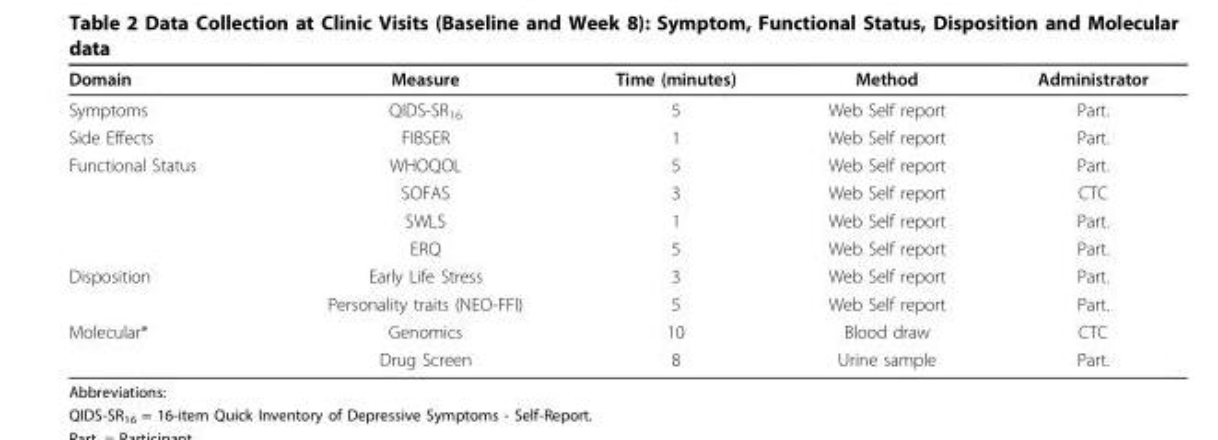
<table><thead><tr><td>Domain</td><td>Measure</td><td>Time (minutes)</td><td>Method</td><td>Administrator</td></tr></thead><tbody><tr><td>Symptoms</td><td>QIDS-SR<sub>16</sub></td><td>5</td><td>Web Self report</td><td>Part.</td></tr><tr><td>Side Effects</td><td>FIBSER</td><td>1</td><td>Web Self report</td><td>Part.</td></tr><tr><td rowspan="4">Functional Status</td><td>WHOQOL</td><td>5</td><td>Web Self report</td><td>Part.</td></tr><tr><td>SOFAS</td><td>3</td><td>Web Self report</td><td>CTC</td></tr><tr><td>SWLS</td><td>1</td><td>Web Self report</td><td>Part.</td></tr><tr><td>ERQ</td><td>5</td><td>Web Self report</td><td>Part.</td></tr><tr><td rowspan="2">Disposition</td><td>Early Life Stress</td><td>3</td><td>Web Self report</td><td>Part.</td></tr><tr><td>Personality traits (NEO-FFI)</td><td>5</td><td>Web Self report</td><td>Part.</td></tr><tr><td rowspan="2">Molecular*</td><td>Genomics</td><td>10</td><td>Blood draw</td><td>CTC</td></tr><tr><td>Drug Screen</td><td>8</td><td>Urine sample</td><td>Part.</td></tr></tbody></table>